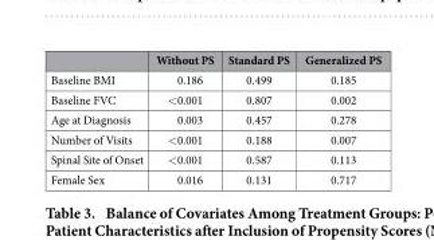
<table><thead><tr><td></td><td>Without PS</td><td>Standard PS</td><td>Generalized PS</td></tr></thead><tbody><tr><td>Baseline BMI</td><td>0.186</td><td>0.499</td><td>0.185</td></tr><tr><td>Baseline FVC</td><td>&lt; 0.001</td><td>0.807</td><td>0.002</td></tr><tr><td>Age at Diagnosis</td><td>0.003</td><td>0.457</td><td>0.278</td></tr><tr><td>Number of Visits</td><td>&lt; 0.001</td><td>0.188</td><td>0.007</td></tr><tr><td>Spinal Site of Onset</td><td>&lt; 0.001</td><td>0.587</td><td>0.113</td></tr><tr><td>Female Sex</td><td>0.016</td><td>0.131</td><td>0.717</td></tr></tbody></table>